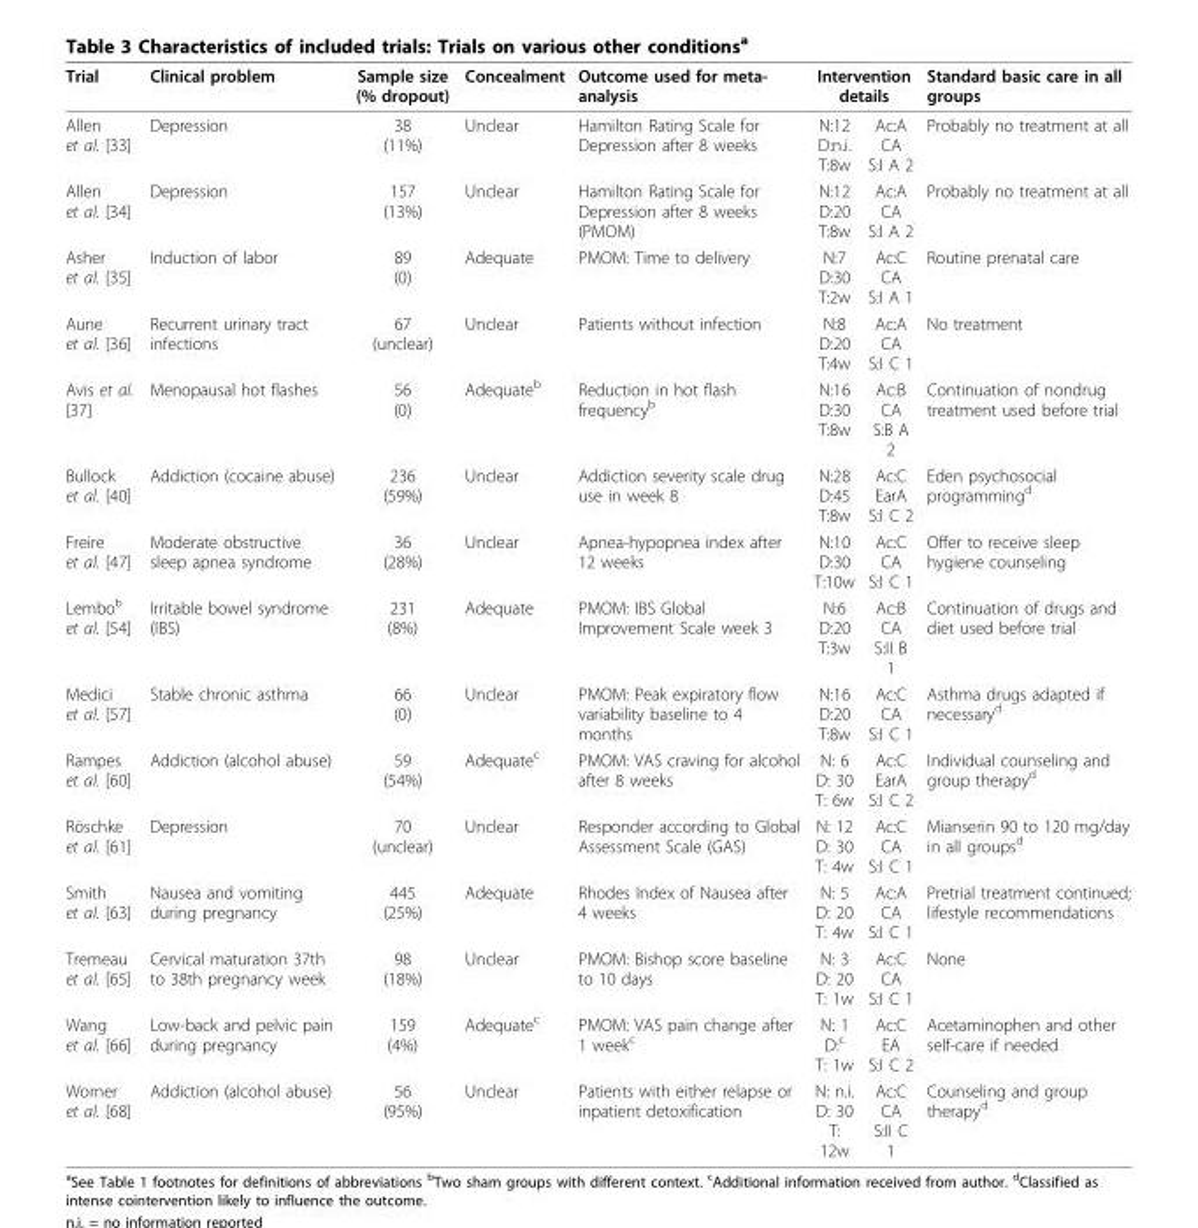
<table><thead><tr><td rowspan="2">Trial Allen et al. [33]</td><td rowspan="2">Clinical problem Depression</td><td rowspan="2">Sample size (% dropout) 38 (11%)</td><td rowspan="2">Concealment Unclear</td><td rowspan="2">Outcome used for meta- analysis Hamilton Rating Scale for Depression after 8 weeks</td><td colspan="2">Intervention details</td><td rowspan="2">Standard basic care in all groups Probably no treatment at all</td></tr><tr><td>N:12 D:n.i. T:8w</td><td>Ac:A CA S:I A 2</td></tr></thead><tbody><tr><td>Allen et al. [34]</td><td>Depression</td><td>157 (13%)</td><td>Unclear</td><td>Hamilton Rating Scale for Depression after 8 weeks (PMOM)</td><td>N:12 D:20 T:8w</td><td>Ac:A CA S:I A 2</td><td>Probably no treatment at all</td></tr><tr><td>Asher et al. [35]</td><td>Induction of labor</td><td>89 (0)</td><td>Adequate</td><td>PMOM: Time to delivery</td><td>N:7 D:30 T:2w</td><td>Ac:C CA S:I A 1</td><td>Routine prenatal care</td></tr><tr><td>Aune et al. [36]</td><td>Recurrent urinary tract infections</td><td>67 (unclear)</td><td>Unclear</td><td>Patients without infection</td><td>N:8 D:20 T:4w</td><td>Ac:A CA S:I C 1</td><td>No treatment</td></tr><tr><td>Avis et al. [37]</td><td>Menopausal hot flashes</td><td>56 (0)</td><td>Adequate<sup>b</sup></td><td>Reduction in hot flash frequency<sup>b</sup></td><td>N:16 D:30 T:8w</td><td>Ac:B CA S:B A 2</td><td>Continuation of nondrug treatment used before trial</td></tr><tr><td>Bullock et al. [40]</td><td>Addiction (cocaine abuse)</td><td>236 (59%)</td><td>Unclear</td><td>Addiction severity scale drug use in week 8</td><td>N:28 D:45 T:8w</td><td>Ac:C EarA S:I C 2</td><td>Eden psychosocial programming<sup>d</sup></td></tr><tr><td>Freire et al. [47]</td><td>Moderate obstructive sleep apnea syndrome</td><td>36 (28%)</td><td>Unclear</td><td>Apnea-hypopnea index after 12 weeks</td><td>N:10 D:30 T:10w</td><td>Ac:C CA S:I C 1</td><td>Offer to receive sleep hygiene counseling</td></tr><tr><td>Lembo<sup>b</sup> et al. [54]</td><td>Irritable bowel syndrome (IBS)</td><td>231 (8%)</td><td>Adequate</td><td>PMOM: IBS Global Improvement Scale week 3</td><td>N:6 D:20 T:3w</td><td>Ac:B CA S:II B 1</td><td>Continuation of drugs and diet used before trial</td></tr><tr><td>Medici et al. [57]</td><td>Stable chronic asthma</td><td>66 (0)</td><td>Unclear</td><td>PMOM: Peak expiratory flow variability baseline to 4 months</td><td>N:16 D:20 T:8w</td><td>Ac:C CA S:I C 1</td><td>Asthma drugs adapted if necessary<sup>d</sup></td></tr><tr><td>Rampes et al. [60]</td><td>Addiction (alcohol abuse)</td><td>59 (54%)</td><td>Adequate<sup>c</sup></td><td>PMOM: VAS craving for alcohol after 8 weeks</td><td>N: 6 D: 30 T: 6w</td><td>Ac:C EarA S:I C 2</td><td>Individual counseling and group therapy<sup>d</sup></td></tr><tr><td>Röschke et al. [61]</td><td>Depression</td><td>70 (unclear)</td><td>Unclear</td><td>Responder according to Global Assessment Scale (GAS)</td><td>N: 12 D: 30 T: 4w</td><td>Ac:C CA S:I C 1</td><td>Mianserin 90 to 120 mg/day in all groups<sup>d</sup></td></tr><tr><td>Smith et al. [63]</td><td>Nausea and vomiting during pregnancy</td><td>445 (25%)</td><td>Adequate</td><td>Rhodes Index of Nausea after 4 weeks</td><td>N: 5 D: 20 T: 4w</td><td>Ac:A CA S:I C 1</td><td>Pretrial treatment continued; lifestyle recommendations</td></tr><tr><td>Tremeau et al. [65]</td><td>Cervical maturation 37th to 38th pregnancy week</td><td>98 (18%)</td><td>Unclear</td><td>PMOM: Bishop score baseline to 10 days</td><td>N: 3 D: 20 T: 1w</td><td>Ac:C CA S:I C 1</td><td>None</td></tr><tr><td>Wang et al. [66]</td><td>Low-back and pelvic pain during pregnancy</td><td>159 (4%)</td><td>Adequate<sup>c</sup></td><td>PMOM: VAS pain change after 1 week<sup>c</sup></td><td>N: 1 D:<sup>c</sup> T: 1w</td><td>Ac:C EA S:I C 2</td><td>Acetaminophen and other self-care if needed</td></tr><tr><td>Worner et al. [68]</td><td>Addiction (alcohol abuse)</td><td>56 (95%)</td><td>Unclear</td><td>Patients with either relapse or inpatient detoxification</td><td>N: n.i. D: 30 T: 12w</td><td>Ac:C CA S:II C 1</td><td>Counseling and group therapy<sup>d</sup></td></tr></tbody></table>